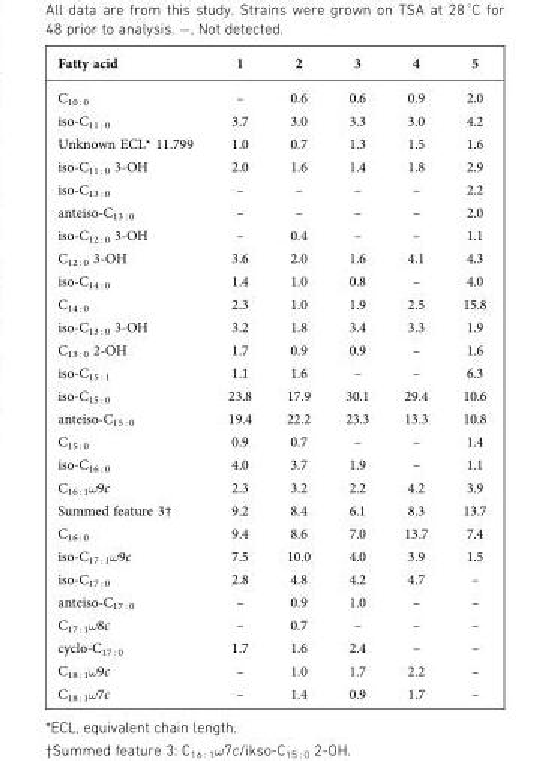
<table><thead><tr><td>Fatty acid</td><td>1</td><td>2</td><td>3</td><td>4</td><td>5</td></tr></thead><tbody><tr><td>C<sub>10 : 0</sub></td><td>–</td><td>0.6</td><td>0.6</td><td>0.9</td><td>2.0</td></tr><tr><td>iso-C<sub>11 : 0</sub></td><td>3.7</td><td>3.0</td><td>3.3</td><td>3.0</td><td>4.2</td></tr><tr><td>Unknown ECL* 11.799</td><td>1.0</td><td>0.7</td><td>1.3</td><td>1.5</td><td>1.6</td></tr><tr><td>iso-C<sub>11 : 0</sub> 3-OH</td><td>2.0</td><td>1.6</td><td>1.4</td><td>1.8</td><td>2.9</td></tr><tr><td>iso-C<sub>13 : 0</sub></td><td>–</td><td>–</td><td>–</td><td>–</td><td>2.2</td></tr><tr><td>anteiso-C<sub>13 : 0</sub></td><td>–</td><td>–</td><td>–</td><td>–</td><td>2.0</td></tr><tr><td>iso-C<sub>12 : 0</sub> 3-OH</td><td>–</td><td>0.4</td><td>–</td><td>–</td><td>1.1</td></tr><tr><td>C<sub>12 : 0</sub> 3-OH</td><td>3.6</td><td>2.0</td><td>1.6</td><td>4.1</td><td>4.3</td></tr><tr><td>iso-C<sub>14 : 0</sub></td><td>1.4</td><td>1.0</td><td>0.8</td><td>–</td><td>4.0</td></tr><tr><td>C<sub>14 : 0</sub></td><td>2.3</td><td>1.0</td><td>1.9</td><td>2.5</td><td>15.8</td></tr><tr><td>iso-C<sub>13 : 0</sub> 3-OH</td><td>3.2</td><td>1.8</td><td>3.4</td><td>3.3</td><td>1.9</td></tr><tr><td>C<sub>13 : 0</sub> 2-OH</td><td>1.7</td><td>0.9</td><td>0.9</td><td>–</td><td>1.6</td></tr><tr><td>iso-C<sub>15 : 1</sub></td><td>1.1</td><td>1.6</td><td>–</td><td>–</td><td>6.3</td></tr><tr><td>iso-C<sub>15 : 0</sub></td><td>23.8</td><td>17.9</td><td>30.1</td><td>29.4</td><td>10.6</td></tr><tr><td>anteiso-C<sub>15 : 0</sub></td><td>19.4</td><td>22.2</td><td>23.3</td><td>13.3</td><td>10.8</td></tr><tr><td>C<sub>15 : 0</sub></td><td>0.9</td><td>0.7</td><td>–</td><td>–</td><td>1.4</td></tr><tr><td>iso-C<sub>16 : 0</sub></td><td>4.0</td><td>3.7</td><td>1.9</td><td>–</td><td>1.1</td></tr><tr><td>C16 : 1!9c</td><td>2.3</td><td>3.2</td><td>2.2</td><td>4.2</td><td>3.9</td></tr><tr><td>Summed feature 3†</td><td>9.2</td><td>8.4</td><td>6.1</td><td>8.3</td><td>13.7</td></tr><tr><td>C<sub>16 : 0</sub></td><td>9.4</td><td>8.6</td><td>7.0</td><td>13.7</td><td>7.4</td></tr><tr><td>iso-C17 : 1!9c</td><td>7.5</td><td>10.0</td><td>4.0</td><td>3.9</td><td>1.5</td></tr><tr><td>iso-C<sub>17 : 0</sub></td><td>2.8</td><td>4.8</td><td>4.2</td><td>4.7</td><td>–</td></tr><tr><td>anteiso-C<sub>17 : 0</sub></td><td>–</td><td>0.9</td><td>1.0</td><td>–</td><td>–</td></tr><tr><td>C17 : 1!8c</td><td>–</td><td>0.7</td><td>–</td><td>–</td><td>–</td></tr><tr><td>cyclo-C<sub>17 : 0</sub></td><td>1.7</td><td>1.6</td><td>2.4</td><td>–</td><td>–</td></tr><tr><td>C18 : 1!9c</td><td>–</td><td>1.0</td><td>1.7</td><td>2.2</td><td>–</td></tr><tr><td>C18 : 1!7c</td><td>–</td><td>1.4</td><td>0.9</td><td>1.7</td><td>–</td></tr></tbody></table>